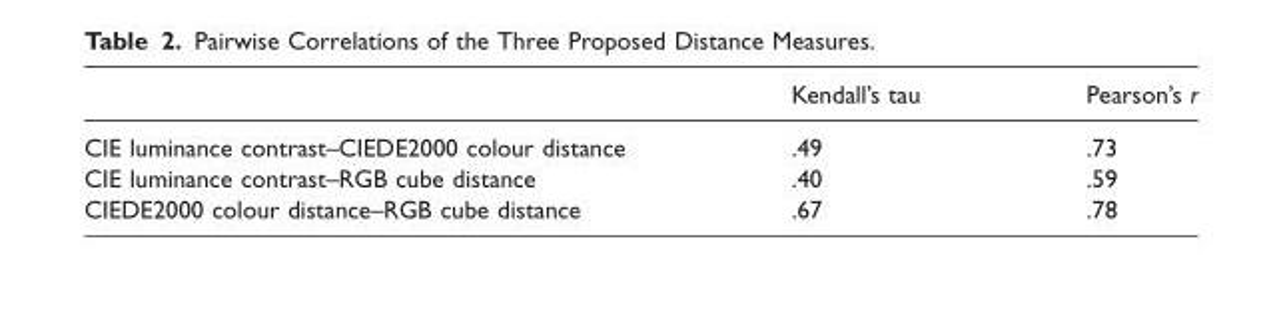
<table><thead><tr><td></td><td>Kendall’s tau</td><td>Pearson’s r</td></tr></thead><tbody><tr><td>CIE luminance contrast–CIEDE2000 colour distance</td><td>.49</td><td>.73</td></tr><tr><td>CIE luminance contrast–RGB cube distance</td><td>.40</td><td>.59</td></tr><tr><td>CIEDE2000 colour distance–RGB cube distance</td><td>.67</td><td>.78</td></tr></tbody></table>